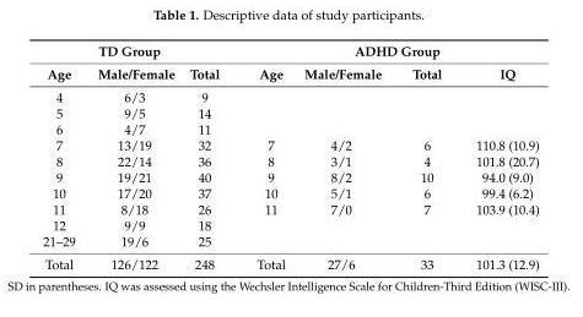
<table><thead><tr><td colspan="3">TD Group</td><td colspan="4">ADHD Group</td></tr><tr><td>Age</td><td>Male/Female</td><td>Total</td><td>Age</td><td>Male/Female</td><td>Total</td><td>IQ</td></tr></thead><tbody><tr><td>4</td><td>6/3</td><td>9</td><td></td><td></td><td></td><td></td></tr><tr><td>5</td><td>9/5</td><td>14</td><td></td><td></td><td></td><td></td></tr><tr><td>6</td><td>4/7</td><td>11</td><td></td><td></td><td></td><td></td></tr><tr><td>7</td><td>13/19</td><td>32</td><td>7</td><td>4/2</td><td>6</td><td>110.8 (10.9)</td></tr><tr><td>8</td><td>22/14</td><td>36</td><td>8</td><td>3/1</td><td>4</td><td>101.8 (20.7)</td></tr><tr><td>9</td><td>19/21</td><td>40</td><td>9</td><td>8/2</td><td>10</td><td>94.0 (9.0)</td></tr><tr><td>10</td><td>17/20</td><td>37</td><td>10</td><td>5/1</td><td>6</td><td>99.4 (6.2)</td></tr><tr><td>11</td><td>8/18</td><td>26</td><td>11</td><td>7/0</td><td>7</td><td>103.9 (10.4)</td></tr><tr><td>12</td><td>9/9</td><td>18</td><td></td><td></td><td></td><td></td></tr><tr><td>21–29</td><td>19/6</td><td>25</td><td></td><td></td><td></td><td></td></tr><tr><td>Total</td><td>126/122</td><td>248</td><td>Total</td><td>27/6</td><td>33</td><td>101.3 (12.9)</td></tr></tbody></table>